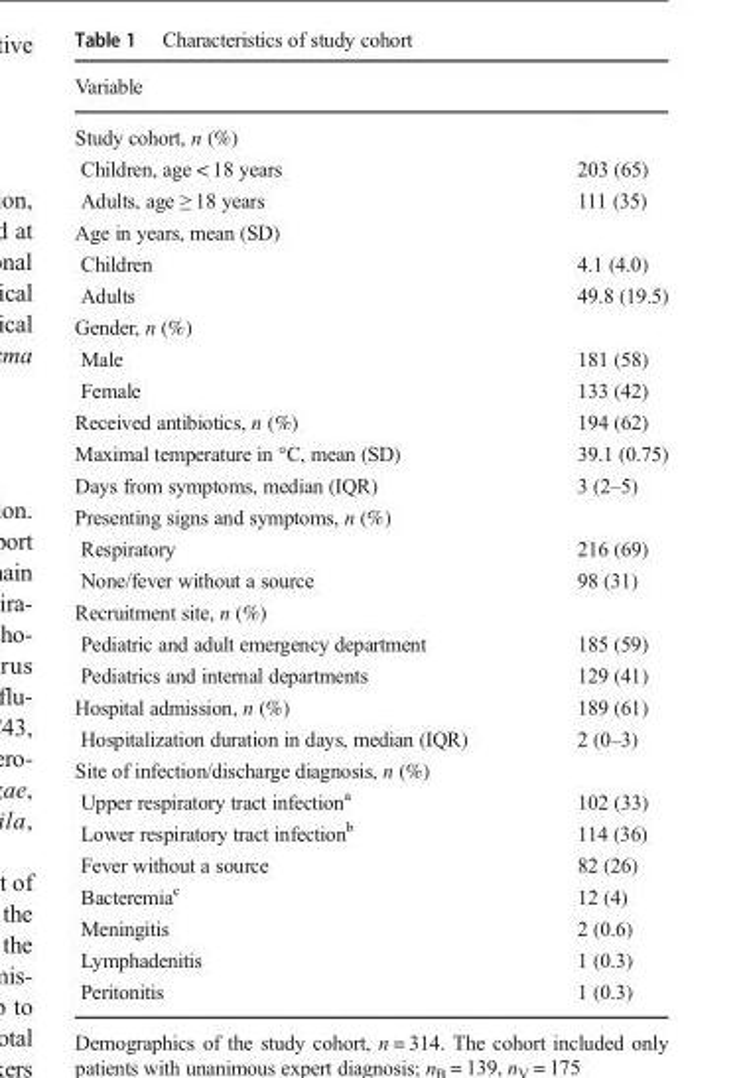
<table><thead><tr><td>Variable</td><td></td></tr></thead><tbody><tr><td colspan="2">Study cohort, n (%)</td></tr><tr><td>Children, age &lt; 18 years</td><td>203 (65)</td></tr><tr><td>Adults, age ≥ 18 years</td><td>111 (35)</td></tr><tr><td colspan="2">Age in years, mean (SD)</td></tr><tr><td>Children</td><td>4.1 (4.0)</td></tr><tr><td>Adults</td><td>49.8 (19.5)</td></tr><tr><td colspan="2">Gender, n (%)</td></tr><tr><td>Male</td><td>181 (58)</td></tr><tr><td>Female</td><td>133 (42)</td></tr><tr><td>Received antibiotics, n (%)</td><td>194 (62)</td></tr><tr><td>Maximal temperature in °C, mean (SD)</td><td>39.1 (0.75)</td></tr><tr><td>Days from symptoms, median (IQR)</td><td>3 (2–5)</td></tr><tr><td colspan="2">Presenting signs and symptoms, n (%)</td></tr><tr><td>Respiratory</td><td>216 (69)</td></tr><tr><td>None/fever without a source</td><td>98 (31)</td></tr><tr><td colspan="2">Recruitment site, n (%)</td></tr><tr><td>Pediatric and adult emergency department</td><td>185 (59)</td></tr><tr><td>Pediatrics and internal departments</td><td>129 (41)</td></tr><tr><td>Hospital admission, n (%)</td><td>189 (61)</td></tr><tr><td>Hospitalization duration in days, median (IQR)</td><td>2 (0–3)</td></tr><tr><td colspan="2">Site of infection/discharge diagnosis, n (%)</td></tr><tr><td>Upper respiratory tract infection<sup>a</sup></td><td>102 (33)</td></tr><tr><td>Lower respiratory tract infection<sup>b</sup></td><td>114 (36)</td></tr><tr><td>Fever without a source</td><td>82 (26)</td></tr><tr><td>Bacteremia<sup>c</sup></td><td>12 (4)</td></tr><tr><td>Meningitis</td><td>2 (0.6)</td></tr><tr><td>Lymphadenitis</td><td>1 (0.3)</td></tr><tr><td>Peritonitis</td><td>1 (0.3)</td></tr></tbody></table>